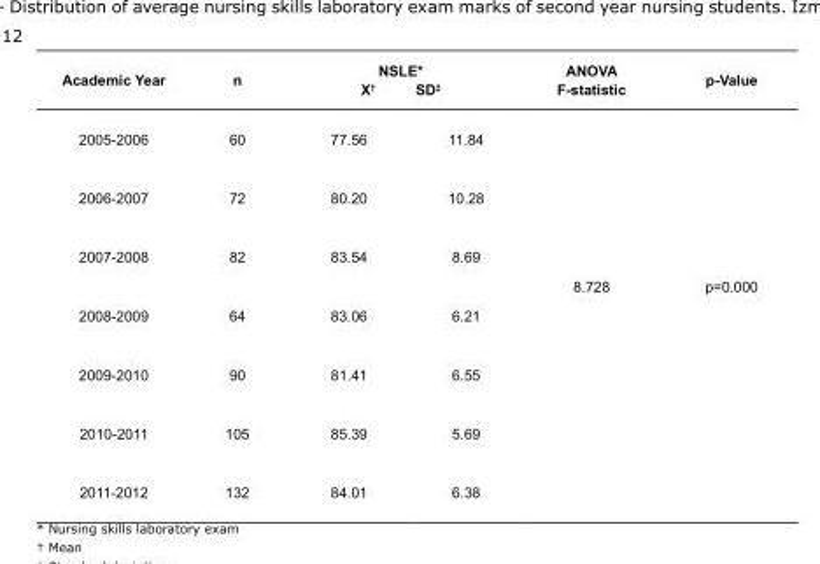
<table><tbody><tr><td>Academic Year</td><td>n</td><td colspan="2">NSLE* X<sup>†</sup> SD<sup>‡</sup></td><td>ANOVA F-statistic</td><td>p-Value</td></tr><tr><td>2005-2006</td><td>60</td><td>77.56</td><td>11.84</td><td rowspan="7">8.728</td><td rowspan="7">p=0.000</td></tr><tr><td>2006-2007</td><td>72</td><td>80.20</td><td>10.28</td></tr><tr><td>2007-2008</td><td>82</td><td>83.54</td><td>8.69</td></tr><tr><td>2008-2009</td><td>64</td><td>83.06</td><td>6.21</td></tr><tr><td>2009-2010</td><td>90</td><td>81.41</td><td>6.55</td></tr><tr><td>2010-2011</td><td>105</td><td>85.39</td><td>5.69</td></tr><tr><td>2011-2012</td><td>132</td><td>84.01</td><td>6.38</td></tr></tbody></table>